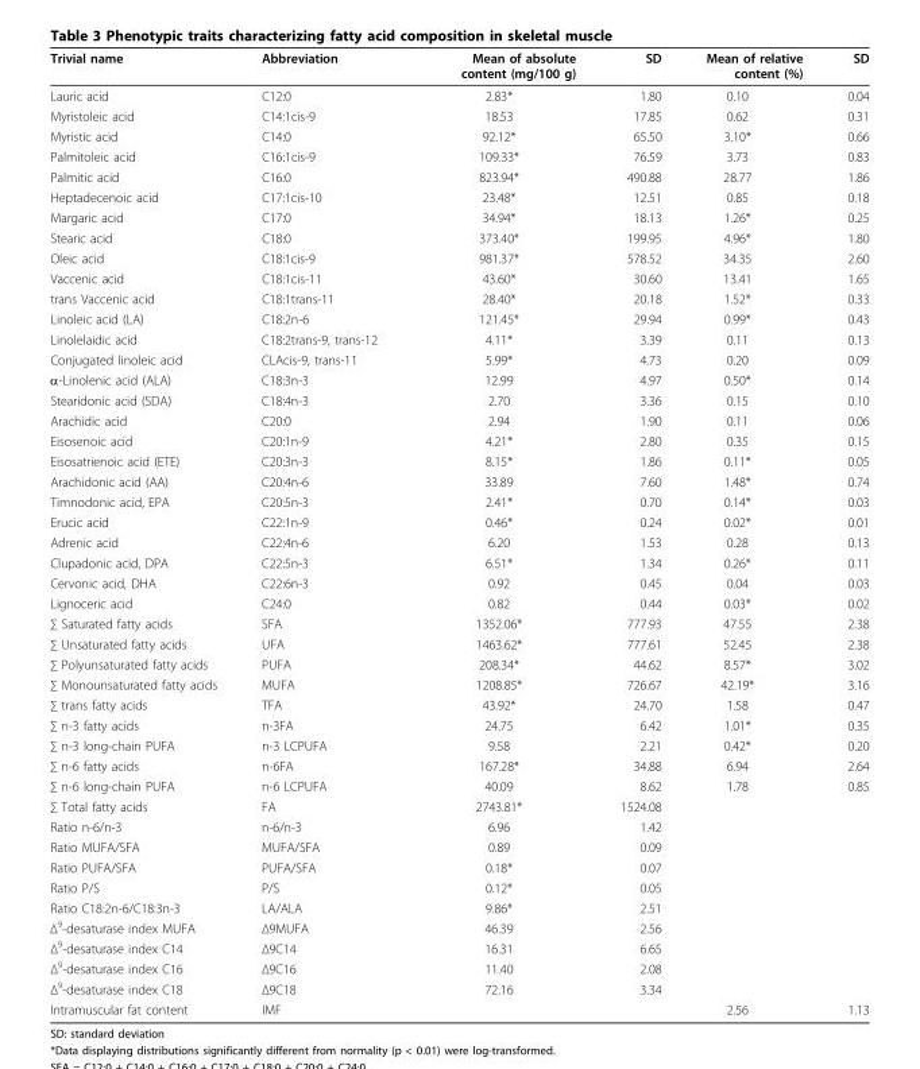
<table><thead><tr><td>Trivial name</td><td>Abbreviation</td><td>Mean of absolute content (mg/100 g)</td><td>SD</td><td>Mean of relative content (%)</td><td>SD</td></tr></thead><tbody><tr><td>Lauric acid</td><td>C12:0</td><td>2.83*</td><td>1.80</td><td>0.10</td><td>0.04</td></tr><tr><td>Myristoleic acid</td><td>C14:1cis-9</td><td>18.53</td><td>17.85</td><td>0.62</td><td>0.31</td></tr><tr><td>Myristic acid</td><td>C14:0</td><td>92.12*</td><td>65.50</td><td>3.10*</td><td>0.66</td></tr><tr><td>Palmitoleic acid</td><td>C16:1cis-9</td><td>109.33*</td><td>76.59</td><td>3.73</td><td>0.83</td></tr><tr><td>Palmitic acid</td><td>C16:0</td><td>823.94*</td><td>490.88</td><td>28.77</td><td>1.86</td></tr><tr><td>Heptadecenoic acid</td><td>C17:1cis-10</td><td>23.48*</td><td>12.51</td><td>0.85</td><td>0.18</td></tr><tr><td>Margaric acid</td><td>C17:0</td><td>34.94*</td><td>18.13</td><td>1.26*</td><td>0.25</td></tr><tr><td>Stearic acid</td><td>C18:0</td><td>373.40*</td><td>199.95</td><td>4.96*</td><td>1.80</td></tr><tr><td>Oleic acid</td><td>C18:1cis-9</td><td>981.37*</td><td>578.52</td><td>34.35</td><td>2.60</td></tr><tr><td>Vaccenic acid</td><td>C18:1cis-11</td><td>43.60*</td><td>30.60</td><td>13.41</td><td>1.65</td></tr><tr><td>trans Vaccenic acid</td><td>C18:1trans-11</td><td>28.40*</td><td>20.18</td><td>1.52*</td><td>0.33</td></tr><tr><td>Linoleic acid (LA)</td><td>C18:2n-6</td><td>121.45*</td><td>29.94</td><td>0.99*</td><td>0.43</td></tr><tr><td>Linolelaidic acid</td><td>C18:2trans-9, trans-12</td><td>4.11*</td><td>3.39</td><td>0.11</td><td>0.13</td></tr><tr><td>Conjugated linoleic acid</td><td>CLAcis-9, trans-11</td><td>5.99*</td><td>4.73</td><td>0.20</td><td>0.09</td></tr><tr><td>α-Linolenic acid (ALA)</td><td>C18:3n-3</td><td>12.99</td><td>4.97</td><td>0.50*</td><td>0.14</td></tr><tr><td>Stearidonic acid (SDA)</td><td>C18:4n-3</td><td>2.70</td><td>3.36</td><td>0.15</td><td>0.10</td></tr><tr><td>Arachidic acid</td><td>C20:0</td><td>2.94</td><td>1.90</td><td>0.11</td><td>0.06</td></tr><tr><td>Eisosenoic acid</td><td>C20:1n-9</td><td>4.21*</td><td>2.80</td><td>0.35</td><td>0.15</td></tr><tr><td>Eisosatrienoic acid (ETE)</td><td>C20:3n-3</td><td>8.15*</td><td>1.86</td><td>0.11*</td><td>0.05</td></tr><tr><td>Arachidonic acid (AA)</td><td>C20:4n-6</td><td>33.89</td><td>7.60</td><td>1.48*</td><td>0.74</td></tr><tr><td>Timnodonic acid, EPA</td><td>C20:5n-3</td><td>2.41*</td><td>0.70</td><td>0.14*</td><td>0.03</td></tr><tr><td>Erucic acid</td><td>C22:1n-9</td><td>0.46*</td><td>0.24</td><td>0.02*</td><td>0.01</td></tr><tr><td>Adrenic acid</td><td>C22:4n-6</td><td>6.20</td><td>1.53</td><td>0.28</td><td>0.13</td></tr><tr><td>Clupadonic acid, DPA</td><td>C22:5n-3</td><td>6.51*</td><td>1.34</td><td>0.26*</td><td>0.11</td></tr><tr><td>Cervonic acid, DHA</td><td>C22:6n-3</td><td>0.92</td><td>0.45</td><td>0.04</td><td>0.03</td></tr><tr><td>Lignoceric acid</td><td>C24:0</td><td>0.82</td><td>0.44</td><td>0.03*</td><td>0.02</td></tr><tr><td>∑ Saturated fatty acids</td><td>SFA</td><td>1352.06*</td><td>777.93</td><td>47.55</td><td>2.38</td></tr><tr><td>∑ Unsaturated fatty acids</td><td>UFA</td><td>1463.62*</td><td>777.61</td><td>52.45</td><td>2.38</td></tr><tr><td>∑ Polyunsaturated fatty acids</td><td>PUFA</td><td>208.34*</td><td>44.62</td><td>8.57*</td><td>3.02</td></tr><tr><td>∑ Monounsaturated fatty acids</td><td>MUFA</td><td>1208.85*</td><td>726.67</td><td>42.19*</td><td>3.16</td></tr><tr><td>∑ trans fatty acids</td><td>TFA</td><td>43.92*</td><td>24.70</td><td>1.58</td><td>0.47</td></tr><tr><td>∑ n-3 fatty acids</td><td>n-3FA</td><td>24.75</td><td>6.42</td><td>1.01*</td><td>0.35</td></tr><tr><td>∑ n-3 long-chain PUFA</td><td>n-3 LCPUFA</td><td>9.58</td><td>2.21</td><td>0.42*</td><td>0.20</td></tr><tr><td>∑ n-6 fatty acids</td><td>n-6FA</td><td>167.28*</td><td>34.88</td><td>6.94</td><td>2.64</td></tr><tr><td>∑ n-6 long-chain PUFA</td><td>n-6 LCPUFA</td><td>40.09</td><td>8.62</td><td>1.78</td><td>0.85</td></tr><tr><td>∑ Total fatty acids</td><td>FA</td><td>2743.81*</td><td>1524.08</td><td></td><td></td></tr><tr><td>Ratio n-6/n-3</td><td>n-6/n-3</td><td>6.96</td><td>1.42</td><td></td><td></td></tr><tr><td>Ratio MUFA/SFA</td><td>MUFA/SFA</td><td>0.89</td><td>0.09</td><td></td><td></td></tr><tr><td>Ratio PUFA/SFA</td><td>PUFA/SFA</td><td>0.18*</td><td>0.07</td><td></td><td></td></tr><tr><td>Ratio P/S</td><td>P/S</td><td>0.12*</td><td>0.05</td><td></td><td></td></tr><tr><td>Ratio C18:2n-6/C18:3n-3</td><td>LA/ALA</td><td>9.86*</td><td>2.51</td><td></td><td></td></tr><tr><td>Δ<sup>9</sup>-desaturase index MUFA</td><td>Δ9MUFA</td><td>46.39</td><td>2.56</td><td></td><td></td></tr><tr><td>Δ<sup>9</sup>-desaturase index C14</td><td>Δ9C14</td><td>16.31</td><td>6.65</td><td></td><td></td></tr><tr><td>Δ<sup>9</sup>-desaturase index C16</td><td>Δ9C16</td><td>11.40</td><td>2.08</td><td></td><td></td></tr><tr><td>Δ<sup>9</sup>-desaturase index C18</td><td>Δ9C18</td><td>72.16</td><td>3.34</td><td></td><td></td></tr><tr><td>Intramuscular fat content</td><td>IMF</td><td></td><td></td><td>2.56</td><td>1.13</td></tr></tbody></table>